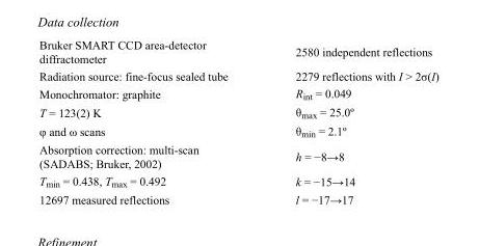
<table><tbody><tr><td>Bruker SMART CCD area-detector diffractometer</td><td>2580 independent reflections</td></tr><tr><td>Radiation source: fine-focus sealed tube</td><td>2279 reflections with I &gt; 2σ(I)</td></tr><tr><td>Monochromator: graphite</td><td>R<sub>int</sub> = 0.049</td></tr><tr><td>T = 123(2) K</td><td>θ<sub>max</sub> = 25.0º</td></tr><tr><td>φ and ω scans</td><td>θ<sub>min</sub> = 2.1º</td></tr><tr><td>Absorption correction: multi-scan (SADABS; Bruker, 2002)</td><td>h = −8→8</td></tr><tr><td>T<sub>min</sub> = 0.438, T<sub>max</sub> = 0.492</td><td>k = −15→14</td></tr><tr><td>12697 measured reflections</td><td>l = −17→17</td></tr></tbody></table>